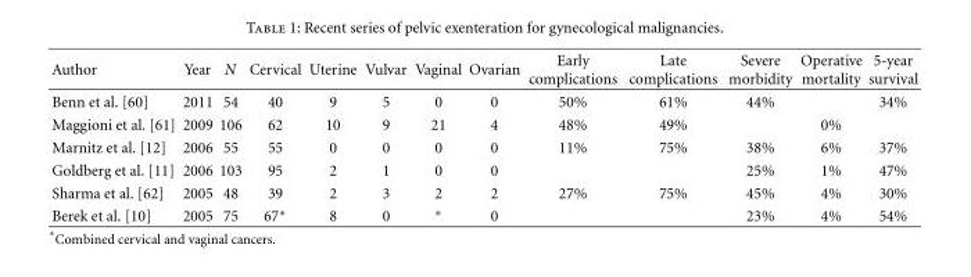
<table><thead><tr><td>Author</td><td>Year</td><td>N</td><td>Cervical</td><td>Uterine</td><td>Vulvar</td><td>Vaginal</td><td>Ovarian</td><td>Early complications</td><td>Late complications</td><td>Severe morbidity</td><td>Operative mortality</td><td>5-year survival</td></tr></thead><tbody><tr><td>Benn et al. [60]</td><td>2011</td><td>54</td><td>40</td><td>9</td><td>5</td><td>0</td><td>0</td><td>50%</td><td>61%</td><td>44%</td><td></td><td>34%</td></tr><tr><td>Maggioni et al. [61]</td><td>2009</td><td>106</td><td>62</td><td>10</td><td>9</td><td>21</td><td>4</td><td>48%</td><td>49%</td><td></td><td>0%</td><td></td></tr><tr><td>Marnitz et al. [12]</td><td>2006</td><td>55</td><td>55</td><td>0</td><td>0</td><td>0</td><td>0</td><td>11%</td><td>75%</td><td>38%</td><td>6%</td><td>37%</td></tr><tr><td>Goldberg et al. [11]</td><td>2006</td><td>103</td><td>95</td><td>2</td><td>1</td><td>0</td><td>0</td><td></td><td></td><td>25%</td><td>1%</td><td>47%</td></tr><tr><td>Sharma et al. [62]</td><td>2005</td><td>48</td><td>39</td><td>2</td><td>3</td><td>2</td><td>2</td><td>27%</td><td>75%</td><td>45%</td><td>4%</td><td>30%</td></tr><tr><td>Berek et al. [10]</td><td>2005</td><td>75</td><td>67∗</td><td>8</td><td>0</td><td>∗</td><td>0</td><td></td><td></td><td>23%</td><td>4%</td><td>54%</td></tr></tbody></table>